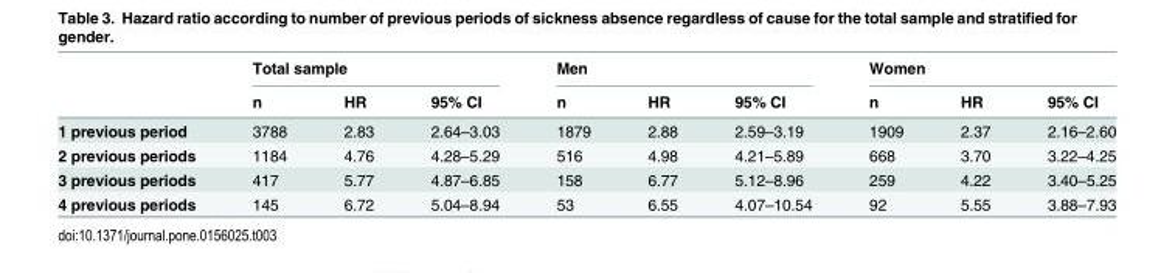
<table><thead><tr><td rowspan="2"></td><td colspan="3">Total sample</td><td colspan="3">Men</td><td colspan="3">Women</td></tr><tr><td>n</td><td>HR</td><td>95% CI</td><td>n</td><td>HR</td><td>95% CI</td><td>n</td><td>HR</td><td>95% CI</td></tr></thead><tbody><tr><td>1 previous period</td><td>3788</td><td>2.83</td><td>2.64–3.03</td><td>1879</td><td>2.88</td><td>2.59–3.19</td><td>1909</td><td>2.37</td><td>2.16–2.60</td></tr><tr><td>2 previous periods</td><td>1184</td><td>4.76</td><td>4.28–5.29</td><td>516</td><td>4.98</td><td>4.21–5.89</td><td>668</td><td>3.70</td><td>3.22–4.25</td></tr><tr><td>3 previous periods</td><td>417</td><td>5.77</td><td>4.87–6.85</td><td>158</td><td>6.77</td><td>5.12–8.96</td><td>259</td><td>4.22</td><td>3.40–5.25</td></tr><tr><td>4 previous periods</td><td>145</td><td>6.72</td><td>5.04–8.94</td><td>53</td><td>6.55</td><td>4.07–10.54</td><td>92</td><td>5.55</td><td>3.88–7.93</td></tr></tbody></table>